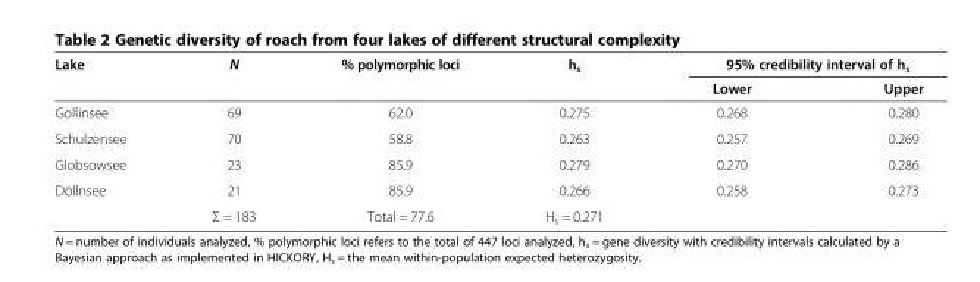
<table><thead><tr><td rowspan="2">Lake</td><td rowspan="2">N</td><td rowspan="2">% polymorphic loci</td><td rowspan="2">h<sub>s</sub></td><td colspan="2">95% credibility interval of h<sub>s</sub></td></tr><tr><td>Lower</td><td>Upper</td></tr></thead><tbody><tr><td>Gollinsee</td><td>69</td><td>62.0</td><td>0.275</td><td>0.268</td><td>0.280</td></tr><tr><td>Schulzensee</td><td>70</td><td>58.8</td><td>0.263</td><td>0.257</td><td>0.269</td></tr><tr><td>Globsowsee</td><td>23</td><td>85.9</td><td>0.279</td><td>0.270</td><td>0.286</td></tr><tr><td rowspan="2">Döllnsee</td><td>21</td><td>85.9</td><td>0.266</td><td>0.258</td><td>0.273</td></tr><tr><td>Σ = 183</td><td>Total = 77.6</td><td>H<sub>s</sub> = 0.271</td><td></td><td></td></tr></tbody></table>